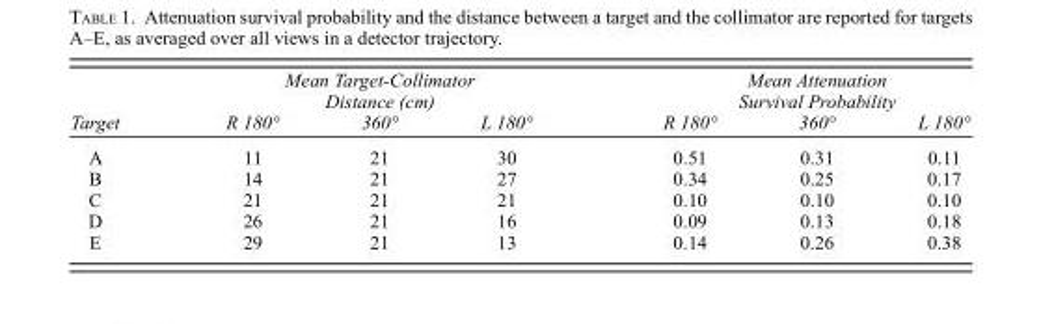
<table><thead><tr><td rowspan="2">Target</td><td rowspan="2">R 180°</td><td rowspan="2">Mean Target-Collimator Distance (cm) 360°</td><td rowspan="2">L 180°</td><td rowspan="2">R 180°</td><td rowspan="2">Mean Attenuation Survival Probability 360°</td><td rowspan="2">L 180°</td></tr><tr></tr></thead><tbody><tr><td>A</td><td>11</td><td>21</td><td>30</td><td>0.51</td><td>0.31</td><td>0.11</td></tr><tr><td>B</td><td>14</td><td>21</td><td>27</td><td>0.34</td><td>0.25</td><td>0.17</td></tr><tr><td>C</td><td>21</td><td>21</td><td>21</td><td>0.10</td><td>0.10</td><td>0.10</td></tr><tr><td>D</td><td>26</td><td>21</td><td>16</td><td>0.09</td><td>0.13</td><td>0.18</td></tr><tr><td>E</td><td>29</td><td>21</td><td>13</td><td>0.14</td><td>0.26</td><td>0.38</td></tr></tbody></table>